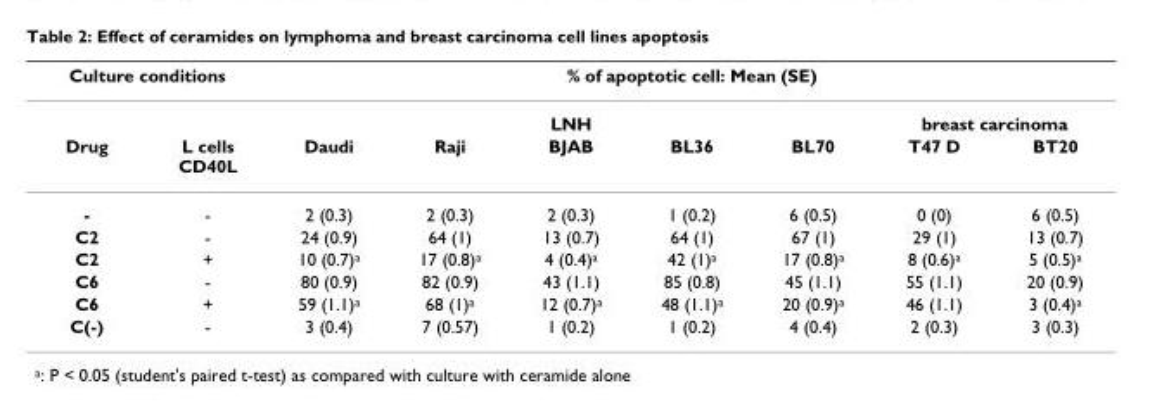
<table><thead><tr><td colspan="2">Culture conditions</td><td colspan="7">% of apoptotic cell: Mean (SE)</td></tr><tr><td rowspan="2">Drug</td><td rowspan="2">L cells CD40L</td><td colspan="5">LNH</td><td colspan="2">breast carcinoma</td></tr><tr><td>Daudi</td><td>Raji</td><td>BJAB</td><td>BL36</td><td>BL70</td><td>T47 D</td><td>BT20</td></tr></thead><tbody><tr><td>-</td><td>-</td><td>2 (0.3)</td><td>2 (0.3)</td><td>2 (0.3)</td><td>1 (0.2)</td><td>6 (0.5)</td><td>0 (0)</td><td>6 (0.5)</td></tr><tr><td>C2</td><td>-</td><td>24 (0.9)</td><td>64 (1)</td><td>13 (0.7)</td><td>64 (1)</td><td>67 (1)</td><td>29 (1)</td><td>13 (0.7)</td></tr><tr><td>C2</td><td>+</td><td>10 (0.7)a</td><td>17 (0.8)a</td><td>4 (0.4)a</td><td>42 (1)a</td><td>17 (0.8)a</td><td>8 (0.6)a</td><td>5 (0.5)a</td></tr><tr><td>C6</td><td>-</td><td>80 (0.9)</td><td>82 (0.9)</td><td>43 (1.1)</td><td>85 (0.8)</td><td>45 (1.1)</td><td>55 (1.1)</td><td>20 (0.9)</td></tr><tr><td>C6</td><td>+</td><td>59 (1.1)a</td><td>68 (1)a</td><td>12 (0.7)a</td><td>48 (1.1)a</td><td>20 (0.9)a</td><td>46 (1.1)</td><td>3 (0.4)a</td></tr><tr><td>C(-)</td><td>-</td><td>3 (0.4)</td><td>7 (0.57)</td><td>1 (0.2)</td><td>1 (0.2)</td><td>4 (0.4)</td><td>2 (0.3)</td><td>3 (0.3)</td></tr></tbody></table>